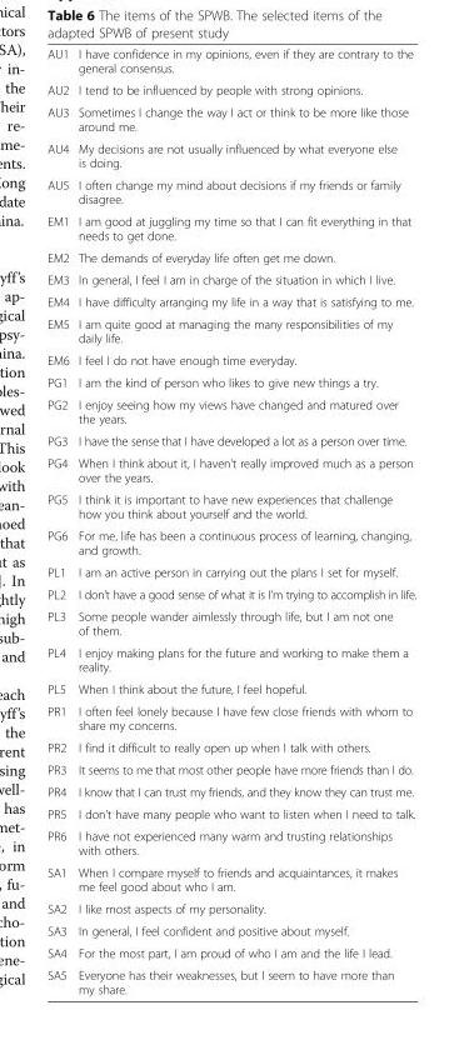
<table><tbody><tr><td>AU1</td><td>I have confidence in my opinions, even if they are contrary to the general consensus.</td></tr><tr><td>AU2</td><td>I tend to be influenced by people with strong opinions.</td></tr><tr><td>AU3</td><td>Sometimes I change the way I act or think to be more like those around me.</td></tr><tr><td>AU4</td><td>My decisions are not usually influenced by what everyone else is doing.</td></tr><tr><td>AU5</td><td>I often change my mind about decisions if my friends or family disagree.</td></tr><tr><td>EM1</td><td>I am good at juggling my time so that I can fit everything in that needs to get done.</td></tr><tr><td>EM2</td><td>The demands of everyday life often get me down.</td></tr><tr><td>EM3</td><td>In general, I feel I am in charge of the situation in which I live.</td></tr><tr><td>EM4</td><td>I have difficulty arranging my life in a way that is satisfying to me.</td></tr><tr><td>EM5</td><td>I am quite good at managing the many responsibilities of my daily life.</td></tr><tr><td>EM6</td><td>I feel I do not have enough time everyday.</td></tr><tr><td>PG1</td><td>I am the kind of person who likes to give new things a try.</td></tr><tr><td>PG2</td><td>I enjoy seeing how my views have changed and matured over the years.</td></tr><tr><td>PG3</td><td>I have the sense that I have developed a lot as a person over time.</td></tr><tr><td>PG4</td><td>When I think about it, I haven’t really improved much as a person over the years.</td></tr><tr><td>PG5</td><td>I think it is important to have new experiences that challenge how you think about yourself and the world.</td></tr><tr><td>PG6</td><td>For me, life has been a continuous process of learning, changing, and growth.</td></tr><tr><td>PL1</td><td>I am an active person in carrying out the plans I set for myself.</td></tr><tr><td>PL2</td><td>I don’t have a good sense of what it is I’m trying to accomplish in life.</td></tr><tr><td>PL3</td><td>Some people wander aimlessly through life, but I am not one of them.</td></tr><tr><td>PL4</td><td>I enjoy making plans for the future and working to make them a reality.</td></tr><tr><td>PL5</td><td>When I think about the future, I feel hopeful.</td></tr><tr><td>PR1</td><td>I often feel lonely because I have few close friends with whom to share my concerns.</td></tr><tr><td>PR2</td><td>I find it difficult to really open up when I talk with others.</td></tr><tr><td>PR3</td><td>It seems to me that most other people have more friends than I do.</td></tr><tr><td>PR4</td><td>I know that I can trust my friends, and they know they can trust me.</td></tr><tr><td>PR5</td><td>I don’t have many people who want to listen when I need to talk.</td></tr><tr><td>PR6</td><td>I have not experienced many warm and trusting relationships with others.</td></tr><tr><td>SA1</td><td>When I compare myself to friends and acquaintances, it makes me feel good about who I am.</td></tr><tr><td>SA2</td><td>I like most aspects of my personality.</td></tr><tr><td>SA3</td><td>In general, I feel confident and positive about myself.</td></tr><tr><td>SA4</td><td>For the most part, I am proud of who I am and the life I lead.</td></tr><tr><td>SA5</td><td>Everyone has their weaknesses, but I seem to have more than my share.</td></tr></tbody></table>